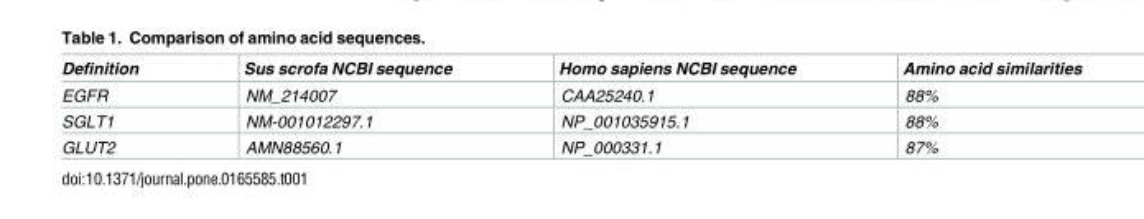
<table><thead><tr><td>Definition</td><td>Sus scrofa NCBI sequence</td><td>Homo sapiens NCBI sequence</td><td>Amino acid similarities</td></tr></thead><tbody><tr><td>EGFR</td><td>NM_214007</td><td>CAA25240.1</td><td>88%</td></tr><tr><td>SGLT1</td><td>NM-001012297.1</td><td>NP_001035915.1</td><td>88%</td></tr><tr><td>GLUT2</td><td>AMN88560.1</td><td>NP_000331.1</td><td>87%</td></tr></tbody></table>